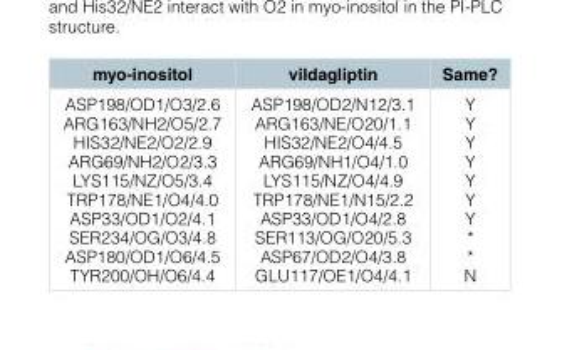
<table><thead><tr><td>myo-inositol</td><td>vildagliptin</td><td>Same?</td></tr></thead><tbody><tr><td>ASP198/OD1/O3/2.6 ARG163/NH2/O5/2.7 HIS32/NE2/O2/2.9 ARG69/NH2/O2/3.3 LYS115/NZ/O5/3.4 TRP178/NE1/O4/4.0 ASP33/OD1/O2/4.1 SER234/OG/O3/4.8 ASP180/OD1/O6/4.5 TYR200/OH/O6/4.4</td><td>ASP198/OD2/N12/3.1 ARG163/NE/O20/1.1 HIS32/NE2/O4/4.5 ARG69/NH1/O4/1.0 LYS115/NZ/O4/4.9 TRP178/NE1/N15/2.2 ASP33/OD1/O4/2.8 SER113/OG/O20/5.3 ASP67/OD2/O4/3.8 GLU117/OE1/O4/4.1</td><td>Y Y Y Y Y Y Y * * N</td></tr></tbody></table>